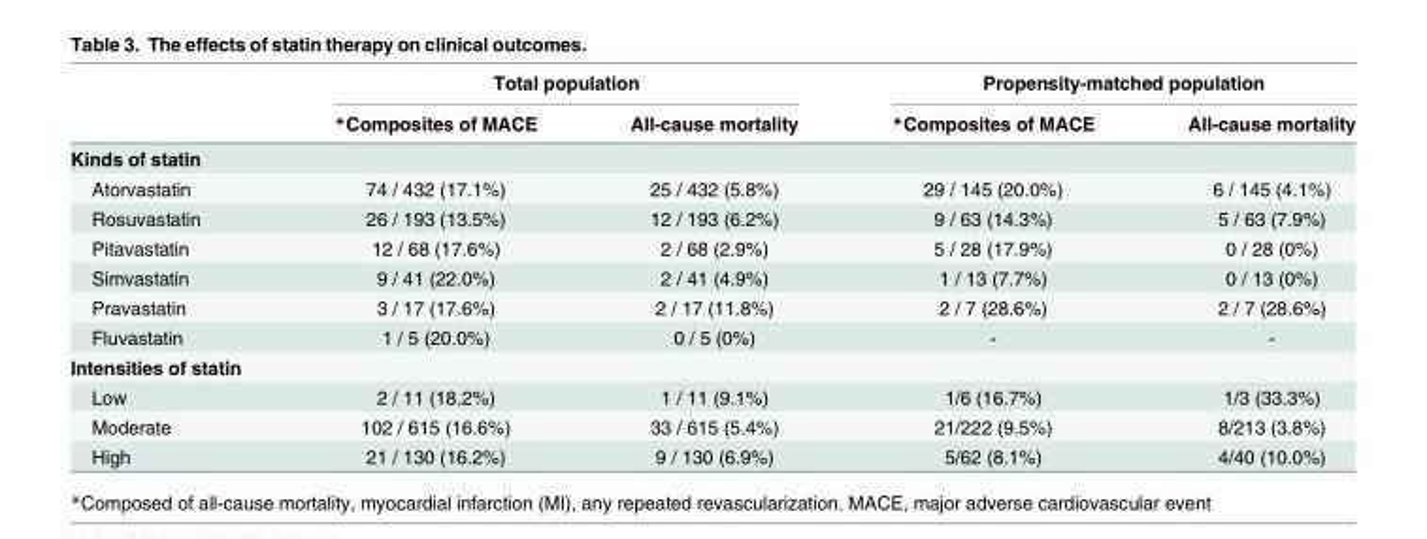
<table><thead><tr><td rowspan="2"></td><td colspan="2">Total population</td><td colspan="2">Propensity-matched population</td></tr><tr><td>*Composites of MACE</td><td>All-cause mortality</td><td>*Composites of MACE</td><td>All-cause mortality</td></tr></thead><tbody><tr><td colspan="5">Kinds of statin</td></tr><tr><td>Atorvastatin</td><td>74 / 432 (17.1%)</td><td>25 / 432 (5.8%)</td><td>29 / 145 (20.0%)</td><td>6 / 145 (4.1%)</td></tr><tr><td>Rosuvastatin</td><td>26 / 193 (13.5%)</td><td>12 / 193 (6.2%)</td><td>9 / 63 (14.3%)</td><td>5 / 63 (7.9%)</td></tr><tr><td>Pitavastatin</td><td>12 / 68 (17.6%)</td><td>2 / 68 (2.9%)</td><td>5 / 28 (17.9%)</td><td>0 / 28 (0%)</td></tr><tr><td>Simvastatin</td><td>9 / 41 (22.0%)</td><td>2 / 41 (4.9%)</td><td>1 / 13 (7.7%)</td><td>0 / 13 (0%)</td></tr><tr><td>Pravastatin</td><td>3 / 17 (17.6%)</td><td>2 / 17 (11.8%)</td><td>2 / 7 (28.6%)</td><td>2 / 7 (28.6%)</td></tr><tr><td>Fluvastatin</td><td>1 / 5 (20.0%)</td><td>0 / 5 (0%)</td><td>-</td><td>-</td></tr><tr><td colspan="5">Intensities of statin</td></tr><tr><td>Low</td><td>2 / 11 (18.2%)</td><td>1 / 11 (9.1%)</td><td>1/6 (16.7%)</td><td>1/3 (33.3%)</td></tr><tr><td>Moderate</td><td>102 / 615 (16.6%)</td><td>33 / 615 (5.4%)</td><td>21/222 (9.5%)</td><td>8/213 (3.8%)</td></tr><tr><td>High</td><td>21 / 130 (16.2%)</td><td>9 / 130 (6.9%)</td><td>5/62 (8.1%)</td><td>4/40 (10.0%)</td></tr></tbody></table>